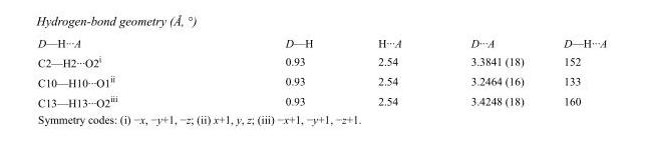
<table><tbody><tr><td>D—H···A</td><td>D—H</td><td>H···A</td><td>D···A</td><td>D—H···A</td></tr><tr><td>C2—H2···O2<sup>i</sup></td><td>0.93</td><td>2.54</td><td>3.3841 (18)</td><td>152</td></tr><tr><td>C10—H10···O1<sup>ii</sup></td><td>0.93</td><td>2.54</td><td>3.2464 (16)</td><td>133</td></tr><tr><td>C13—H13···O2<sup>iii</sup></td><td>0.93</td><td>2.54</td><td>3.4248 (18)</td><td>160</td></tr></tbody></table>